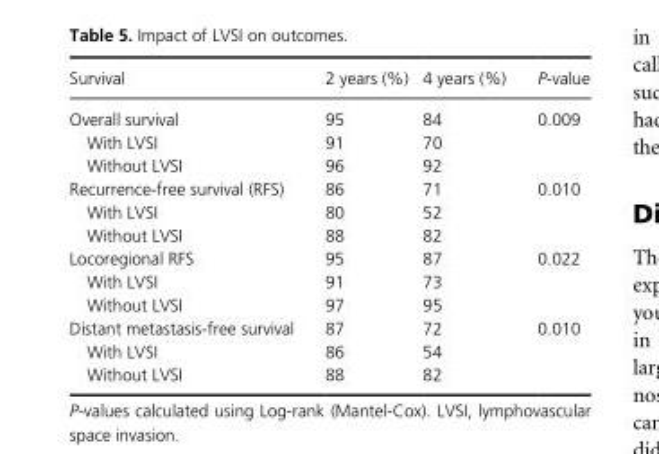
<table><thead><tr><td>Survival</td><td>2 years (%)</td><td>4 years (%)</td><td>P- value</td></tr></thead><tbody><tr><td>Overall survival</td><td>95</td><td>84</td><td rowspan="3">0.009</td></tr><tr><td>With LVSI</td><td>91</td><td>70</td></tr><tr><td>Without LVSI</td><td>96</td><td>92</td></tr><tr><td>Recurrence- free survival (RFS)</td><td>86</td><td>71</td><td rowspan="3">0.010</td></tr><tr><td>With LVSI</td><td>80</td><td>52</td></tr><tr><td>Without LVSI</td><td>88</td><td>82</td></tr><tr><td>Locoregional RFS</td><td>95</td><td>87</td><td rowspan="3">0.022</td></tr><tr><td>With LVSI</td><td>91</td><td>73</td></tr><tr><td>Without LVSI</td><td>97</td><td>95</td></tr><tr><td>Distant metastasis- free survival</td><td>87</td><td>72</td><td rowspan="3">0.010</td></tr><tr><td>With LVSI</td><td>86</td><td>54</td></tr><tr><td>Without LVSI</td><td>88</td><td>82</td></tr></tbody></table>